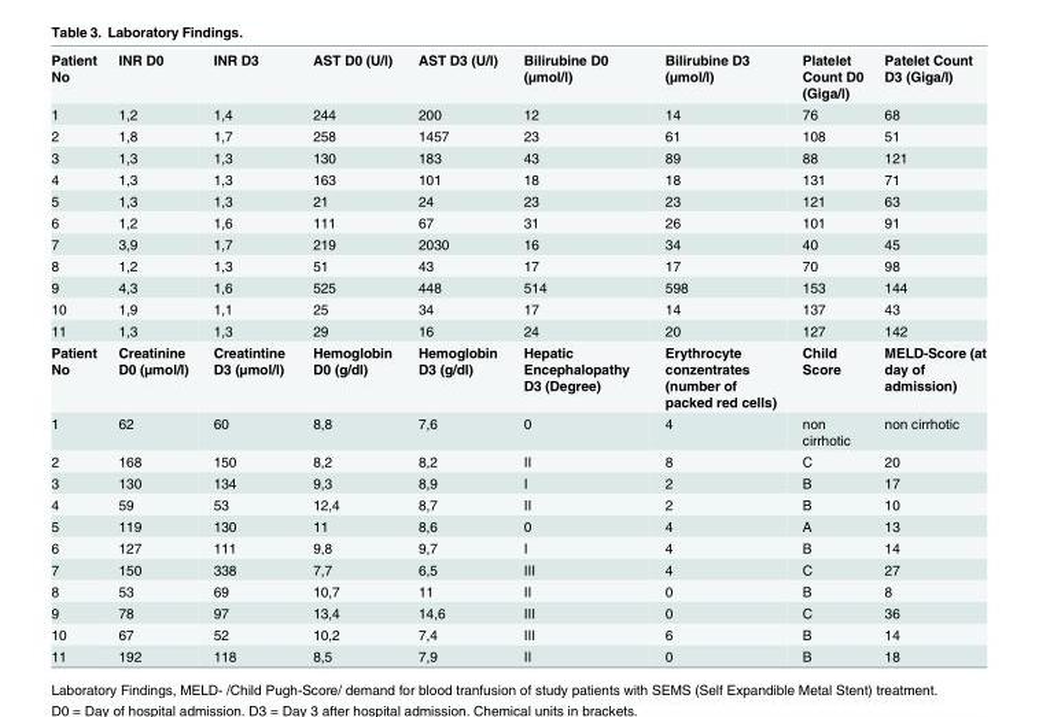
<table><tbody><tr><td>Patient No</td><td>INR D0</td><td>INR D3</td><td>AST D0 (U/l)</td><td>AST D3 (U/l)</td><td>Bilirubine D0 (µmol/l)</td><td>Bilirubine D3 (µmol/l)</td><td>Platelet Count D0 (Giga/l)</td><td>Patelet Count D3 (Giga/l)</td></tr><tr><td>1</td><td>1,2</td><td>1,4</td><td>244</td><td>200</td><td>12</td><td>14</td><td>76</td><td>68</td></tr><tr><td>2</td><td>1,8</td><td>1,7</td><td>258</td><td>1457</td><td>23</td><td>61</td><td>108</td><td>51</td></tr><tr><td>3</td><td>1,3</td><td>1,3</td><td>130</td><td>183</td><td>43</td><td>89</td><td>88</td><td>121</td></tr><tr><td>4</td><td>1,3</td><td>1,3</td><td>163</td><td>101</td><td>18</td><td>18</td><td>131</td><td>71</td></tr><tr><td>5</td><td>1,3</td><td>1,3</td><td>21</td><td>24</td><td>23</td><td>23</td><td>121</td><td>63</td></tr><tr><td>6</td><td>1,2</td><td>1,6</td><td>111</td><td>67</td><td>31</td><td>26</td><td>101</td><td>91</td></tr><tr><td>7</td><td>3,9</td><td>1,7</td><td>219</td><td>2030</td><td>16</td><td>34</td><td>40</td><td>45</td></tr><tr><td>8</td><td>1,2</td><td>1,3</td><td>51</td><td>43</td><td>17</td><td>17</td><td>70</td><td>98</td></tr><tr><td>9</td><td>4,3</td><td>1,6</td><td>525</td><td>448</td><td>514</td><td>598</td><td>153</td><td>144</td></tr><tr><td>10</td><td>1,9</td><td>1,1</td><td>25</td><td>34</td><td>17</td><td>14</td><td>137</td><td>43</td></tr><tr><td>11</td><td>1,3</td><td>1,3</td><td>29</td><td>16</td><td>24</td><td>20</td><td>127</td><td>142</td></tr><tr><td>Patient No</td><td>Creatinine D0 (µmol/l)</td><td>Creatintine D3 (µmol/l)</td><td>Hemoglobin D0 (g/dl)</td><td>Hemoglobin D3 (g/dl)</td><td>Hepatic Encephalopathy D3 (Degree)</td><td>Erythrocyte conzentrates (number of packed red cells)</td><td>Child Score</td><td>MELD-Score (at day of admission)</td></tr><tr><td>1</td><td>62</td><td>60</td><td>8,8</td><td>7,6</td><td>0</td><td>4</td><td>non cirrhotic</td><td>non cirrhotic</td></tr><tr><td>2</td><td>168</td><td>150</td><td>8,2</td><td>8,2</td><td>II</td><td>8</td><td>C</td><td>20</td></tr><tr><td>3</td><td>130</td><td>134</td><td>9,3</td><td>8,9</td><td>I</td><td>2</td><td>B</td><td>17</td></tr><tr><td>4</td><td>59</td><td>53</td><td>12,4</td><td>8,7</td><td>II</td><td>2</td><td>B</td><td>10</td></tr><tr><td>5</td><td>119</td><td>130</td><td>11</td><td>8,6</td><td>0</td><td>4</td><td>A</td><td>13</td></tr><tr><td>6</td><td>127</td><td>111</td><td>9,8</td><td>9,7</td><td>I</td><td>4</td><td>B</td><td>14</td></tr><tr><td>7</td><td>150</td><td>338</td><td>7,7</td><td>6,5</td><td>III</td><td>4</td><td>C</td><td>27</td></tr><tr><td>8</td><td>53</td><td>69</td><td>10,7</td><td>11</td><td>II</td><td>0</td><td>B</td><td>8</td></tr><tr><td>9</td><td>78</td><td>97</td><td>13,4</td><td>14,6</td><td>III</td><td>0</td><td>C</td><td>36</td></tr><tr><td>10</td><td>67</td><td>52</td><td>10,2</td><td>7,4</td><td>III</td><td>6</td><td>B</td><td>14</td></tr><tr><td>11</td><td>192</td><td>118</td><td>8,5</td><td>7,9</td><td>II</td><td>0</td><td>B</td><td>18</td></tr></tbody></table>